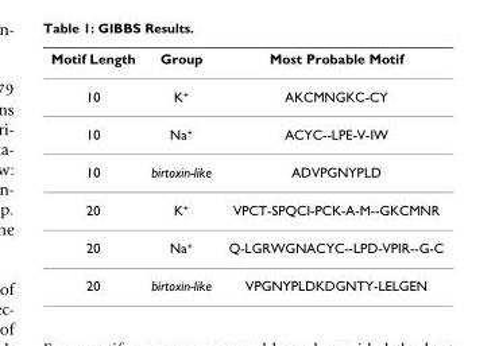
<table><thead><tr><td>Motif Length</td><td>Group</td><td>Most Probable Motif</td></tr></thead><tbody><tr><td>10</td><td>K+</td><td>AKCMNGKC-CY</td></tr><tr><td>10</td><td>Na+</td><td>ACYC--LPE-V-IW</td></tr><tr><td>10</td><td>birtoxin-like</td><td>ADVPGNYPLD</td></tr><tr><td>20</td><td>K+</td><td>VPCT-SPQCI-PCK-A-M--GKCMNR</td></tr><tr><td>20</td><td>Na+</td><td>Q-LGRWGNACYC--LPD-VPIR--G-C</td></tr><tr><td>20</td><td>birtoxin-like</td><td>VPGNYPLDKDGNTY-LELGEN</td></tr></tbody></table>